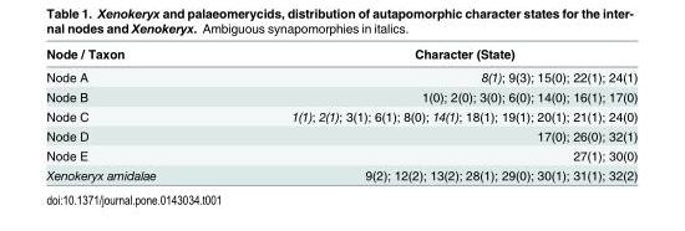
<table><thead><tr><td>Node / Taxon</td><td>Character (State)</td></tr></thead><tbody><tr><td>Node A</td><td>8(1); 9(3); 15(0); 22(1); 24(1)</td></tr><tr><td>Node B</td><td>1(0); 2(0); 3(0); 6(0); 14(0); 16(1); 17(0)</td></tr><tr><td>Node C</td><td>1(1); 2(1); 3(1); 6(1); 8(0); 14(1); 18(1); 19(1); 20(1); 21(1); 24(0)</td></tr><tr><td>Node D</td><td>17(0); 26(0); 32(1)</td></tr><tr><td>Node E</td><td>27(1); 30(0)</td></tr><tr><td>Xenokeryx amidalae</td><td>9(2); 12(2); 13(2); 28(1); 29(0); 30(1); 31(1); 32(2)</td></tr></tbody></table>